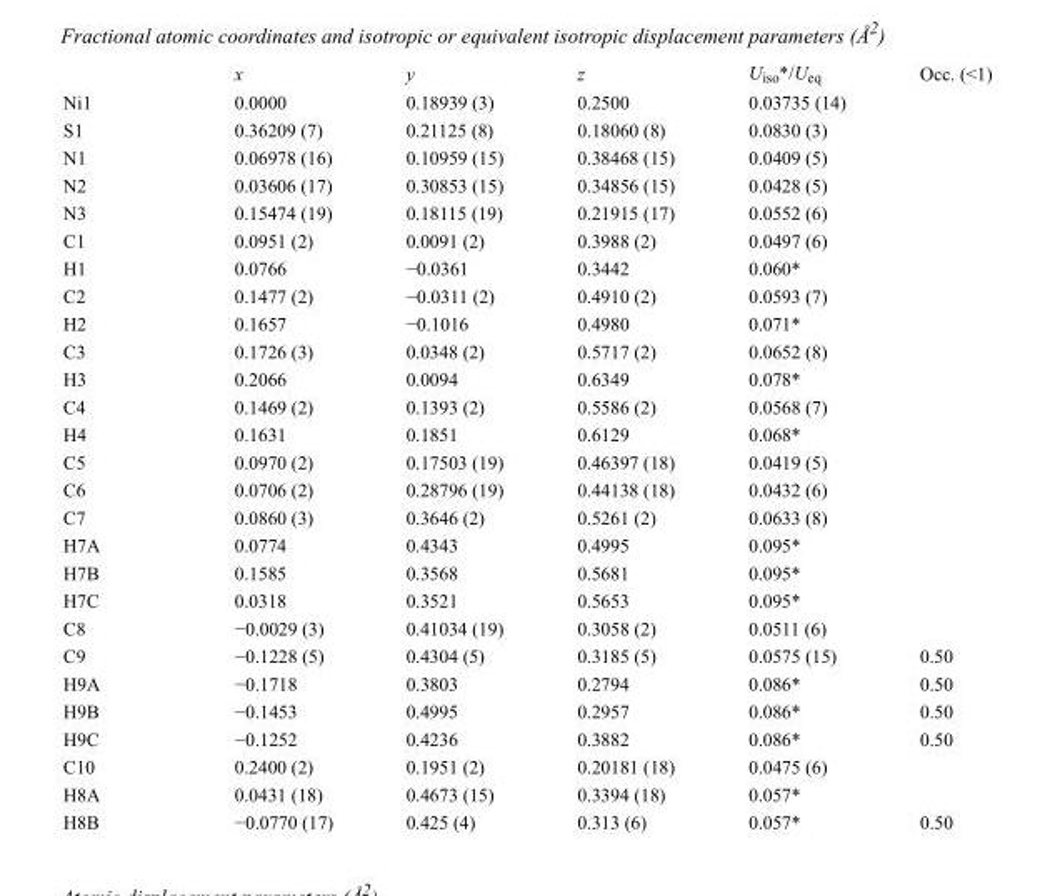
<table><thead><tr><td></td><td>x</td><td>y</td><td>z</td><td>U<sub>iso</sub>*/U<sub>eq</sub></td><td>Occ. (&lt;1)</td></tr></thead><tbody><tr><td>Ni1</td><td>0.0000</td><td>0.18939 (3)</td><td>0.2500</td><td>0.03735 (14)</td><td></td></tr><tr><td>S1</td><td>0.36209 (7)</td><td>0.21125 (8)</td><td>0.18060 (8)</td><td>0.0830 (3)</td><td></td></tr><tr><td>N1</td><td>0.06978 (16)</td><td>0.10959 (15)</td><td>0.38468 (15)</td><td>0.0409 (5)</td><td></td></tr><tr><td>N2</td><td>0.03606 (17)</td><td>0.30853 (15)</td><td>0.34856 (15)</td><td>0.0428 (5)</td><td></td></tr><tr><td>N3</td><td>0.15474 (19)</td><td>0.18115 (19)</td><td>0.21915 (17)</td><td>0.0552 (6)</td><td></td></tr><tr><td>C1</td><td>0.0951 (2)</td><td>0.0091 (2)</td><td>0.3988 (2)</td><td>0.0497 (6)</td><td></td></tr><tr><td>H1</td><td>0.0766</td><td>−0.0361</td><td>0.3442</td><td>0.060*</td><td></td></tr><tr><td>C2</td><td>0.1477 (2)</td><td>−0.0311 (2)</td><td>0.4910 (2)</td><td>0.0593 (7)</td><td></td></tr><tr><td>H2</td><td>0.1657</td><td>−0.1016</td><td>0.4980</td><td>0.071*</td><td></td></tr><tr><td>C3</td><td>0.1726 (3)</td><td>0.0348 (2)</td><td>0.5717 (2)</td><td>0.0652 (8)</td><td></td></tr><tr><td>H3</td><td>0.2066</td><td>0.0094</td><td>0.6349</td><td>0.078*</td><td></td></tr><tr><td>C4</td><td>0.1469 (2)</td><td>0.1393 (2)</td><td>0.5586 (2)</td><td>0.0568 (7)</td><td></td></tr><tr><td>H4</td><td>0.1631</td><td>0.1851</td><td>0.6129</td><td>0.068*</td><td></td></tr><tr><td>C5</td><td>0.0970 (2)</td><td>0.17503 (19)</td><td>0.46397 (18)</td><td>0.0419 (5)</td><td></td></tr><tr><td>C6</td><td>0.0706 (2)</td><td>0.28796 (19)</td><td>0.44138 (18)</td><td>0.0432 (6)</td><td></td></tr><tr><td>C7</td><td>0.0860 (3)</td><td>0.3646 (2)</td><td>0.5261 (2)</td><td>0.0633 (8)</td><td></td></tr><tr><td>H7A</td><td>0.0774</td><td>0.4343</td><td>0.4995</td><td>0.095*</td><td></td></tr><tr><td>H7B</td><td>0.1585</td><td>0.3568</td><td>0.5681</td><td>0.095*</td><td></td></tr><tr><td>H7C</td><td>0.0318</td><td>0.3521</td><td>0.5653</td><td>0.095*</td><td></td></tr><tr><td>C8</td><td>−0.0029 (3)</td><td>0.41034 (19)</td><td>0.3058 (2)</td><td>0.0511 (6)</td><td></td></tr><tr><td>C9</td><td>−0.1228 (5)</td><td>0.4304 (5)</td><td>0.3185 (5)</td><td>0.0575 (15)</td><td>0.50</td></tr><tr><td>H9A</td><td>−0.1718</td><td>0.3803</td><td>0.2794</td><td>0.086*</td><td>0.50</td></tr><tr><td>H9B</td><td>−0.1453</td><td>0.4995</td><td>0.2957</td><td>0.086*</td><td>0.50</td></tr><tr><td>H9C</td><td>−0.1252</td><td>0.4236</td><td>0.3882</td><td>0.086*</td><td>0.50</td></tr><tr><td>C10</td><td>0.2400 (2)</td><td>0.1951 (2)</td><td>0.20181 (18)</td><td>0.0475 (6)</td><td></td></tr><tr><td>H8A</td><td>0.0431 (18)</td><td>0.4673 (15)</td><td>0.3394 (18)</td><td>0.057*</td><td></td></tr><tr><td>H8B</td><td>−0.0770 (17)</td><td>0.425 (4)</td><td>0.313 (6)</td><td>0.057*</td><td>0.50</td></tr></tbody></table>